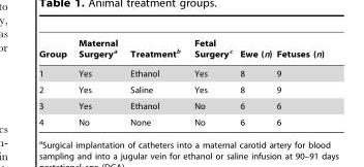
<table><thead><tr><td>Group</td><td>Maternal Surgery<sup>a</sup></td><td>Treatment<sup>b</sup></td><td>Fetal Surgery<sup>c</sup></td><td>Ewe (n)</td><td>Fetuses (n)</td></tr></thead><tbody><tr><td>1</td><td>Yes</td><td>Ethanol</td><td>Yes</td><td>8</td><td>9</td></tr><tr><td>2</td><td>Yes</td><td>Saline</td><td>Yes</td><td>8</td><td>9</td></tr><tr><td>3</td><td>Yes</td><td>Ethanol</td><td>No</td><td>6</td><td>6</td></tr><tr><td>4</td><td>No</td><td>None</td><td>No</td><td>6</td><td>6</td></tr></tbody></table>